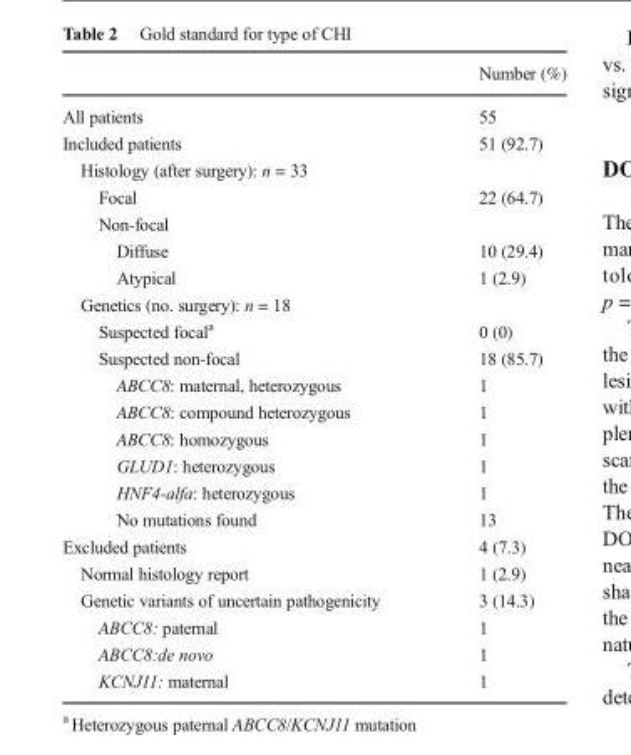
<table><thead><tr><td></td><td>Number (%)</td></tr></thead><tbody><tr><td>All patients</td><td>55</td></tr><tr><td>Included patients</td><td>51 (92.7)</td></tr><tr><td colspan="2">Histology (after surgery): n = 33</td></tr><tr><td>Focal</td><td>22 (64.7)</td></tr><tr><td colspan="2">Non-focal</td></tr><tr><td>Diffuse</td><td>10 (29.4)</td></tr><tr><td>Atypical</td><td>1 (2.9)</td></tr><tr><td colspan="2">Genetics (no. surgery): n = 18</td></tr><tr><td>Suspected focal<sup>a</sup></td><td>0 (0)</td></tr><tr><td>Suspected non-focal</td><td>18 (85.7)</td></tr><tr><td>ABCC8: maternal, heterozygous</td><td>1</td></tr><tr><td>ABCC8: compound heterozygous</td><td>1</td></tr><tr><td>ABCC8: homozygous</td><td>1</td></tr><tr><td>GLUD1: heterozygous</td><td>1</td></tr><tr><td>HNF4-alfa: heterozygous</td><td>1</td></tr><tr><td>No mutations found</td><td>13</td></tr><tr><td>Excluded patients</td><td>4 (7.3)</td></tr><tr><td>Normal histology report</td><td>1 (2.9)</td></tr><tr><td>Genetic variants of uncertain pathogenicity</td><td>3 (14.3)</td></tr><tr><td>ABCC8: paternal</td><td>1</td></tr><tr><td>ABCC8:de novo</td><td>1</td></tr><tr><td>KCNJ11: maternal</td><td>1</td></tr></tbody></table>